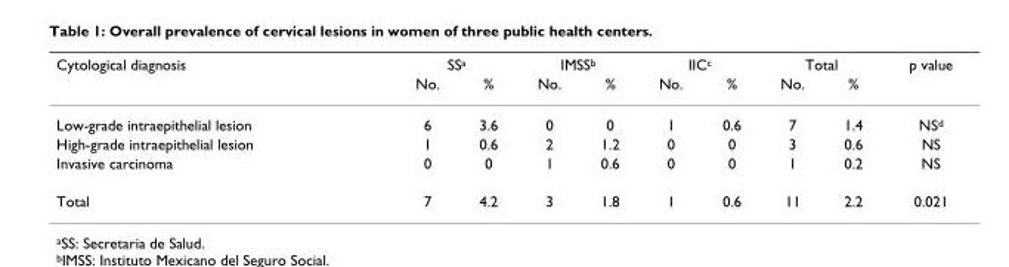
<table><thead><tr><td rowspan="2">Cytological diagnosis</td><td colspan="2">SS<sup>a</sup></td><td colspan="2">IMSS<sup>b</sup></td><td colspan="2">IIC<sup>c</sup></td><td colspan="2">Total</td><td rowspan="2">p value</td></tr><tr><td>No.</td><td>%</td><td>No.</td><td>%</td><td>No.</td><td>%</td><td>No.</td><td>%</td></tr></thead><tbody><tr><td>Low-grade intraepithelial lesion</td><td>6</td><td>3.6</td><td>0</td><td>0</td><td>1</td><td>0.6</td><td>7</td><td>1.4</td><td>NS<sup>d</sup></td></tr><tr><td>High-grade intraepithelial lesion</td><td>1</td><td>0.6</td><td>2</td><td>1.2</td><td>0</td><td>0</td><td>3</td><td>0.6</td><td>NS</td></tr><tr><td>Invasive carcinoma</td><td>0</td><td>0</td><td>1</td><td>0.6</td><td>0</td><td>0</td><td>1</td><td>0.2</td><td>NS</td></tr><tr><td>Total</td><td>7</td><td>4.2</td><td>3</td><td>1.8</td><td>1</td><td>0.6</td><td>11</td><td>2.2</td><td>0.021</td></tr></tbody></table>